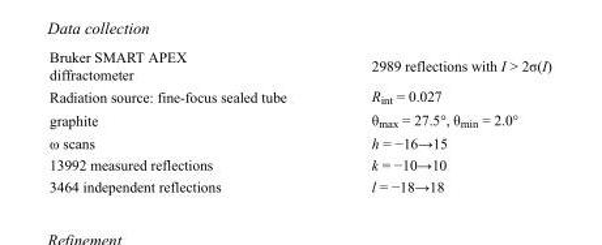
<table><tbody><tr><td>Bruker SMART APEX diffractometer</td><td>2989 reflections with I &gt; 2σ(I)</td></tr><tr><td>Radiation source: fine-focus sealed tube</td><td>R<sub>int</sub> = 0.027</td></tr><tr><td>graphite</td><td>θ<sub>max</sub> = 27.5°, θ<sub>min</sub> = 2.0°</td></tr><tr><td>ω scans</td><td>h = −16→15</td></tr><tr><td>13992 measured reflections</td><td>k = −10→10</td></tr><tr><td>3464 independent reflections</td><td>l = −18→18</td></tr></tbody></table>